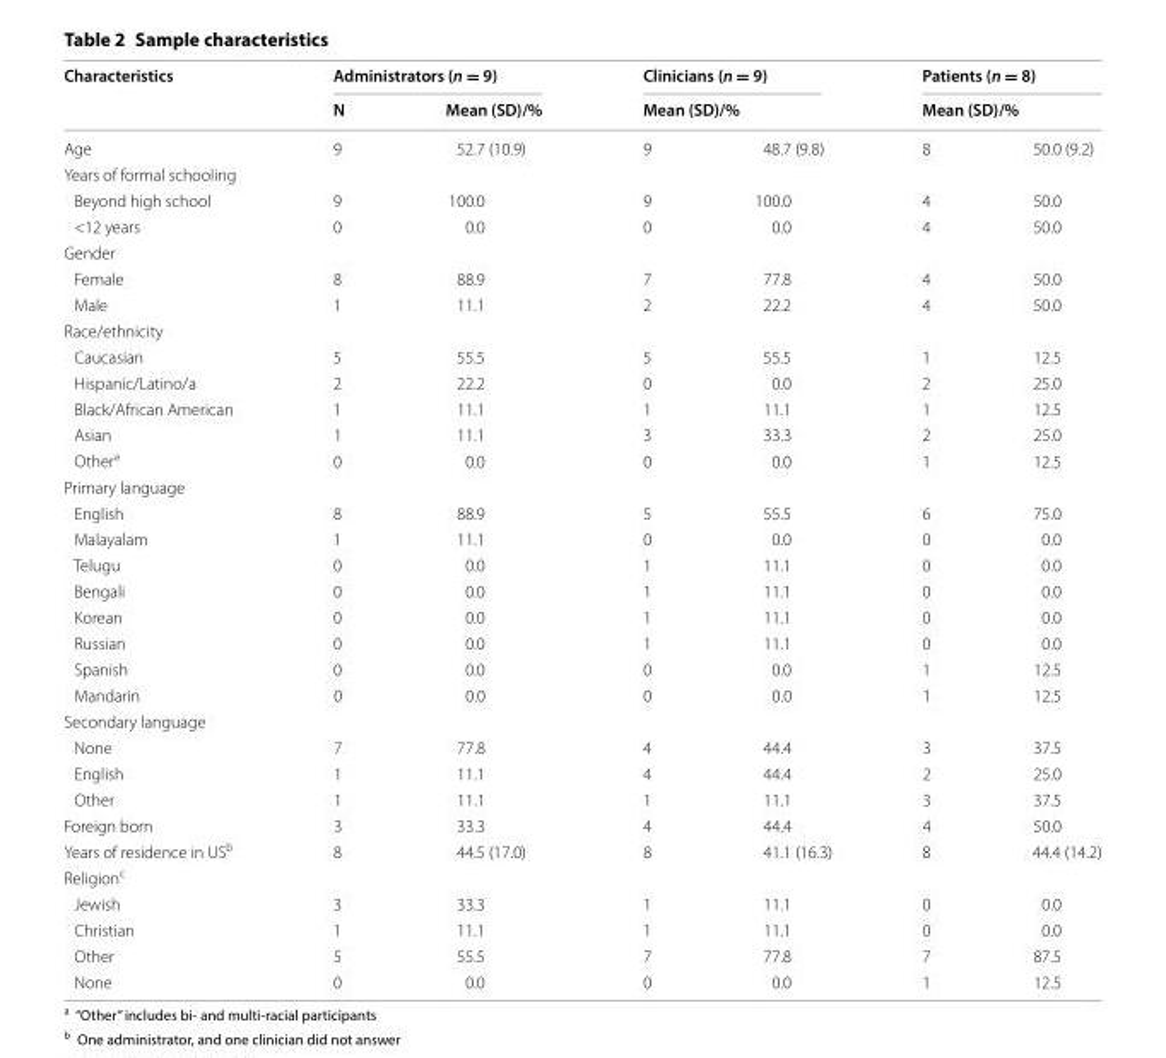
<table><thead><tr><td rowspan="3">Characteristics Age</td><td colspan="2">Administrators (n = 9)</td><td rowspan="2" colspan="2">Clinicians (n = 9) Mean (SD)/%</td><td rowspan="2" colspan="2">Patients (n = 8) Mean (SD)/%</td></tr><tr><td rowspan="2">N 9</td><td rowspan="2">Mean (SD)/% 52.7 (10.9)</td></tr><tr><td>9</td><td>48.7 (9.8)</td><td>8</td><td>50.0 (9.2)</td></tr></thead><tbody><tr><td colspan="7">Years of formal schooling</td></tr><tr><td>Beyond high school</td><td>9</td><td>100.0</td><td>9</td><td>100.0</td><td>4</td><td>50.0</td></tr><tr><td>&lt;12 years</td><td>0</td><td>0.0</td><td>0</td><td>0.0</td><td>4</td><td>50.0</td></tr><tr><td colspan="7">Gender</td></tr><tr><td>Female</td><td>8</td><td>88.9</td><td>7</td><td>77.8</td><td>4</td><td>50.0</td></tr><tr><td>Male</td><td>1</td><td>11.1</td><td>2</td><td>22.2</td><td>4</td><td>50.0</td></tr><tr><td colspan="7">Race/ethnicity</td></tr><tr><td>Caucasian</td><td>5</td><td>55.5</td><td>5</td><td>55.5</td><td>1</td><td>12.5</td></tr><tr><td>Hispanic/Latino/a</td><td>2</td><td>22.2</td><td>0</td><td>0.0</td><td>2</td><td>25.0</td></tr><tr><td>Black/African American</td><td>1</td><td>11.1</td><td>1</td><td>11.1</td><td>1</td><td>12.5</td></tr><tr><td>Asian</td><td>1</td><td>11.1</td><td>3</td><td>33.3</td><td>2</td><td>25.0</td></tr><tr><td>Other<sup>a</sup></td><td>0</td><td>0.0</td><td>0</td><td>0.0</td><td>1</td><td>12.5</td></tr><tr><td colspan="7">Primary language</td></tr><tr><td>English</td><td>8</td><td>88.9</td><td>5</td><td>55.5</td><td>6</td><td>75.0</td></tr><tr><td>Malayalam</td><td>1</td><td>11.1</td><td>0</td><td>0.0</td><td>0</td><td>0.0</td></tr><tr><td>Telugu</td><td>0</td><td>0.0</td><td>1</td><td>11.1</td><td>0</td><td>0.0</td></tr><tr><td>Bengali</td><td>0</td><td>0.0</td><td>1</td><td>11.1</td><td>0</td><td>0.0</td></tr><tr><td>Korean</td><td>0</td><td>0.0</td><td>1</td><td>11.1</td><td>0</td><td>0.0</td></tr><tr><td>Russian</td><td>0</td><td>0.0</td><td>1</td><td>11.1</td><td>0</td><td>0.0</td></tr><tr><td>Spanish</td><td>0</td><td>0.0</td><td>0</td><td>0.0</td><td>1</td><td>12.5</td></tr><tr><td>Mandarin</td><td>0</td><td>0.0</td><td>0</td><td>0.0</td><td>1</td><td>12.5</td></tr><tr><td colspan="7">Secondary language</td></tr><tr><td>None</td><td>7</td><td>77.8</td><td>4</td><td>44.4</td><td>3</td><td>37.5</td></tr><tr><td>English</td><td>1</td><td>11.1</td><td>4</td><td>44.4</td><td>2</td><td>25.0</td></tr><tr><td>Other</td><td>1</td><td>11.1</td><td>1</td><td>11.1</td><td>3</td><td>37.5</td></tr><tr><td>Foreign born</td><td>3</td><td>33.3</td><td>4</td><td>44.4</td><td>4</td><td>50.0</td></tr><tr><td>Years of residence in US<sup>b</sup></td><td>8</td><td>44.5 (17.0)</td><td>8</td><td>41.1 (16.3)</td><td>8</td><td>44.4 (14.2)</td></tr><tr><td colspan="7">Religion<sup>c</sup></td></tr><tr><td>Jewish</td><td>3</td><td>33.3</td><td>1</td><td>11.1</td><td>0</td><td>0.0</td></tr><tr><td>Christian</td><td>1</td><td>11.1</td><td>1</td><td>11.1</td><td>0</td><td>0.0</td></tr><tr><td>Other</td><td>5</td><td>55.5</td><td>7</td><td>77.8</td><td>7</td><td>87.5</td></tr><tr><td>None</td><td>0</td><td>0.0</td><td>0</td><td>0.0</td><td>1</td><td>12.5</td></tr></tbody></table>